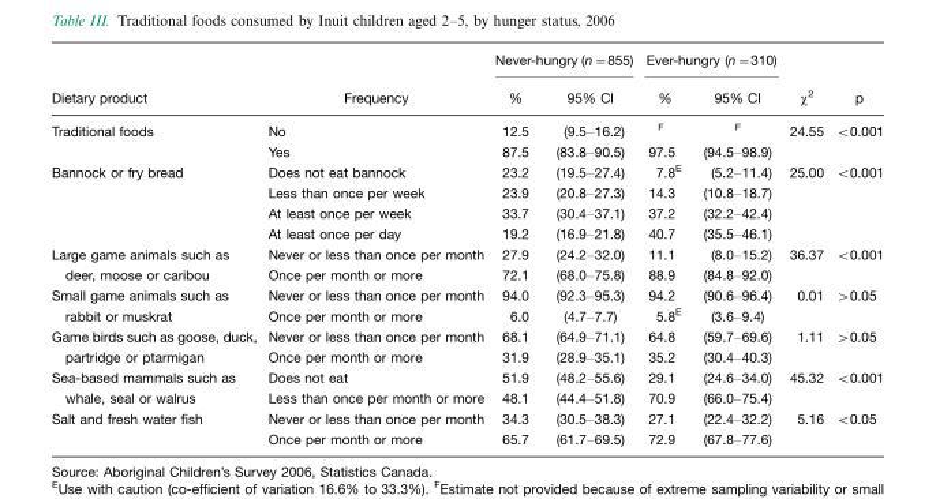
<table><thead><tr><td rowspan="2">Dietary product</td><td rowspan="2">Frequency</td><td colspan="2">Never-hungry (n=855)</td><td colspan="2">Ever-hungry (n=310)</td><td rowspan="2">χ<sup>2</sup></td><td rowspan="2">p</td></tr><tr><td>%</td><td>95% CI</td><td>%</td><td>95% CI</td></tr></thead><tbody><tr><td rowspan="2">Traditional foods</td><td>No</td><td>12.5</td><td>(9.5–16.2)</td><td>F</td><td>F</td><td>24.55</td><td>&lt;0.001</td></tr><tr><td>Yes</td><td>87.5</td><td>(83.8–90.5)</td><td>97.5</td><td>(94.5–98.9)</td><td></td><td></td></tr><tr><td rowspan="4">Bannock or fry bread</td><td>Does not eat bannock</td><td>23.2</td><td>(19.5–27.4)</td><td>7.8<sup>E</sup></td><td>(5.2–11.4)</td><td>25.00</td><td>&lt;0.001</td></tr><tr><td>Less than once per week</td><td>23.9</td><td>(20.8–27.3)</td><td>14.3</td><td>(10.8–18.7)</td><td></td><td></td></tr><tr><td>At least once per week</td><td>33.7</td><td>(30.4–37.1)</td><td>37.2</td><td>(32.2–42.4)</td><td></td><td></td></tr><tr><td>At least once per day</td><td>19.2</td><td>(16.9–21.8)</td><td>40.7</td><td>(35.5–46.1)</td><td></td><td></td></tr><tr><td rowspan="2">Large game animals such as deer, moose or caribou</td><td>Never or less than once per month</td><td>27.9</td><td>(24.2–32.0)</td><td>11.1</td><td>(8.0–15.2)</td><td>36.37</td><td>&lt;0.001</td></tr><tr><td>Once per month or more</td><td>72.1</td><td>(68.0–75.8)</td><td>88.9</td><td>(84.8–92.0)</td><td></td><td></td></tr><tr><td rowspan="2">Small game animals such as rabbit or muskrat</td><td>Never or less than once per month</td><td>94.0</td><td>(92.3–95.3)</td><td>94.2</td><td>(90.6–96.4)</td><td>0.01</td><td>&gt;0.05</td></tr><tr><td>Once per month or more</td><td>6.0</td><td>(4.7–7.7)</td><td>5.8<sup>E</sup></td><td>(3.6–9.4)</td><td></td><td></td></tr><tr><td rowspan="2">Game birds such as goose, duck, partridge or ptarmigan</td><td>Never or less than once per month</td><td>68.1</td><td>(64.9–71.1)</td><td>64.8</td><td>(59.7–69.6)</td><td>1.11</td><td>&gt;0.05</td></tr><tr><td>Once per month or more</td><td>31.9</td><td>(28.9–35.1)</td><td>35.2</td><td>(30.4–40.3)</td><td></td><td></td></tr><tr><td rowspan="2">Sea-based mammals such as whale, seal or walrus</td><td>Does not eat</td><td>51.9</td><td>(48.2–55.6)</td><td>29.1</td><td>(24.6–34.0)</td><td>45.32</td><td>&lt;0.001</td></tr><tr><td>Less than once per month or more</td><td>48.1</td><td>(44.4–51.8)</td><td>70.9</td><td>(66.0–75.4)</td><td></td><td></td></tr><tr><td rowspan="2">Salt and fresh water fish</td><td>Never or less than once per month</td><td>34.3</td><td>(30.5–38.3)</td><td>27.1</td><td>(22.4–32.2)</td><td>5.16</td><td>&lt;0.05</td></tr><tr><td>Once per month or more</td><td>65.7</td><td>(61.7–69.5)</td><td>72.9</td><td>(67.8–77.6)</td><td></td><td></td></tr></tbody></table>